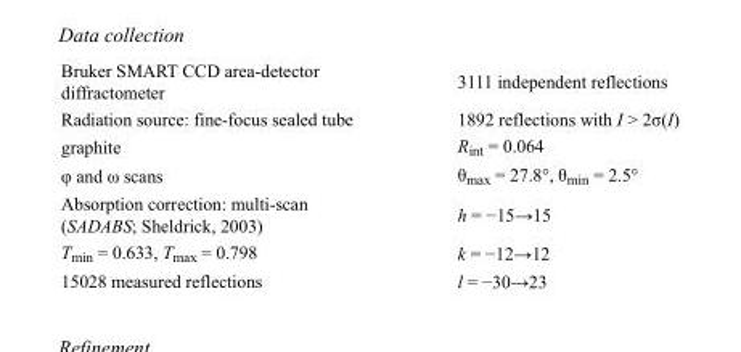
<table><tbody><tr><td>Bruker SMART CCD area-detector diffractometer</td><td>3111 independent reflections</td></tr><tr><td>Radiation source: fine-focus sealed tube</td><td>1892 reflections with I &gt; 2σ(I)</td></tr><tr><td>graphite</td><td>R<sub>int</sub> = 0.064</td></tr><tr><td>φ and ω scans</td><td>θ<sub>max</sub> = 27.8°, θ<sub>min</sub> = 2.5°</td></tr><tr><td>Absorption correction: multi-scan (SADABS; Sheldrick, 2003)</td><td>h = −15→15</td></tr><tr><td>T<sub>min</sub> = 0.633, T<sub>max</sub> = 0.798</td><td>k = −12→12</td></tr><tr><td>15028 measured reflections</td><td>l = −30→23</td></tr></tbody></table>